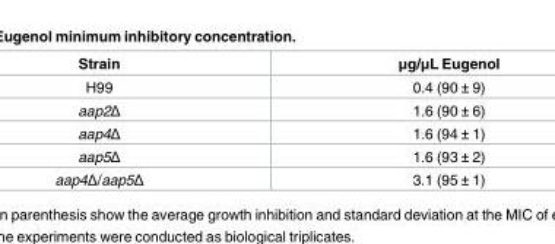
<table><thead><tr><td>Strain</td><td>μg/μL Eugenol</td></tr></thead><tbody><tr><td>H99</td><td>0.4 (90 ± 9)</td></tr><tr><td>aap2Δ</td><td>1.6 (90 ± 6)</td></tr><tr><td>aap4Δ</td><td>1.6 (94 ± 1)</td></tr><tr><td>aap5Δ</td><td>1.6 (93 ± 2)</td></tr><tr><td>aap4Δ/aap5Δ</td><td>3.1 (95 ± 1)</td></tr></tbody></table>